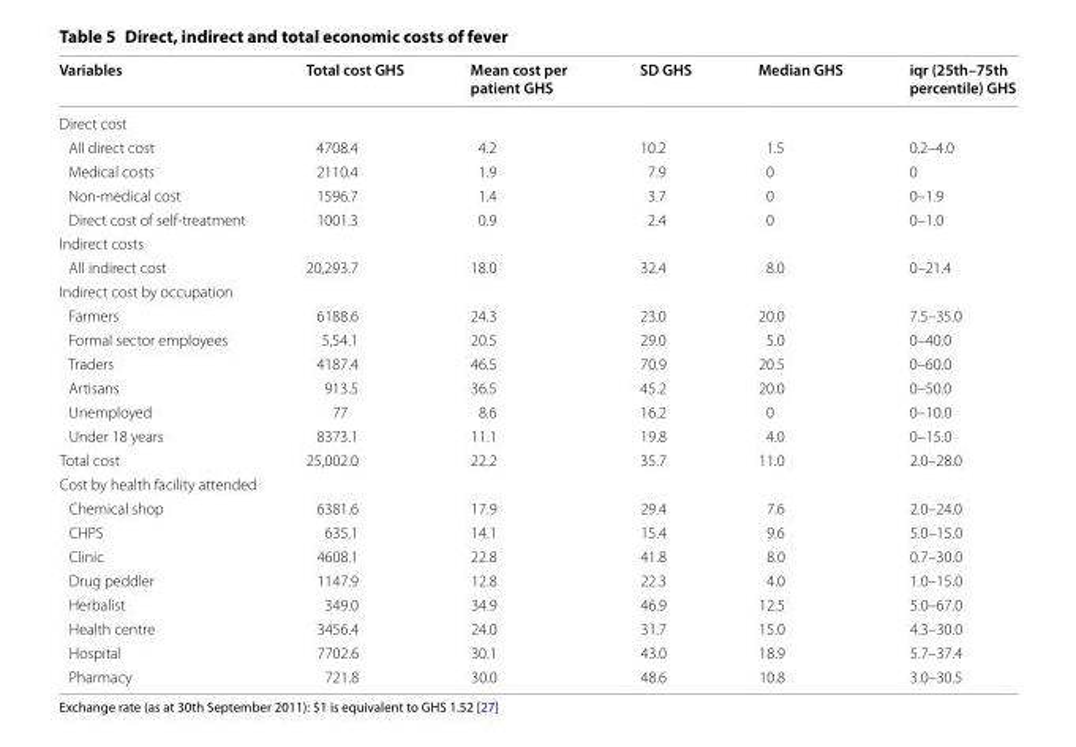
<table><thead><tr><td>Variables</td><td>Total cost GHS</td><td>Mean cost per patient GHS</td><td>SD GHS</td><td>Median GHS</td><td>iqr (25th–75th percentile) GHS</td></tr></thead><tbody><tr><td colspan="6">Direct cost</td></tr><tr><td>All direct cost</td><td>4708.4</td><td>4.2</td><td>10.2</td><td>1.5</td><td>0.2–4.0</td></tr><tr><td>Medical costs</td><td>2110.4</td><td>1.9</td><td>7.9</td><td>0</td><td>0</td></tr><tr><td>Non‑medical cost</td><td>1596.7</td><td>1.4</td><td>3.7</td><td>0</td><td>0–1.9</td></tr><tr><td>Direct cost of self‑treatment</td><td>1001.3</td><td>0.9</td><td>2.4</td><td>0</td><td>0–1.0</td></tr><tr><td colspan="6">Indirect costs</td></tr><tr><td>All indirect cost</td><td>20,293.7</td><td>18.0</td><td>32.4</td><td>8.0</td><td>0–21.4</td></tr><tr><td colspan="6">Indirect cost by occupation</td></tr><tr><td>Farmers</td><td>6188.6</td><td>24.3</td><td>23.0</td><td>20.0</td><td>7.5–35.0</td></tr><tr><td>Formal sector employees</td><td>5,54.1</td><td>20.5</td><td>29.0</td><td>5.0</td><td>0–40.0</td></tr><tr><td>Traders</td><td>4187.4</td><td>46.5</td><td>70.9</td><td>20.5</td><td>0–60.0</td></tr><tr><td>Artisans</td><td>913.5</td><td>36.5</td><td>45.2</td><td>20.0</td><td>0–50.0</td></tr><tr><td>Unemployed</td><td>77</td><td>8.6</td><td>16.2</td><td>0</td><td>0–10.0</td></tr><tr><td>Under 18 years</td><td>8373.1</td><td>11.1</td><td>19.8</td><td>4.0</td><td>0–15.0</td></tr><tr><td>Total cost</td><td>25,002.0</td><td>22.2</td><td>35.7</td><td>11.0</td><td>2.0–28.0</td></tr><tr><td colspan="6">Cost by health facility attended</td></tr><tr><td>Chemical shop</td><td>6381.6</td><td>17.9</td><td>29.4</td><td>7.6</td><td>2.0–24.0</td></tr><tr><td>CHPS</td><td>635.1</td><td>14.1</td><td>15.4</td><td>9.6</td><td>5.0–15.0</td></tr><tr><td>Clinic</td><td>4608.1</td><td>22.8</td><td>41.8</td><td>8.0</td><td>0.7–30.0</td></tr><tr><td>Drug peddler</td><td>1147.9</td><td>12.8</td><td>22.3</td><td>4.0</td><td>1.0–15.0</td></tr><tr><td>Herbalist</td><td>349.0</td><td>34.9</td><td>46.9</td><td>12.5</td><td>5.0–67.0</td></tr><tr><td>Health centre</td><td>3456.4</td><td>24.0</td><td>31.7</td><td>15.0</td><td>4.3–30.0</td></tr><tr><td>Hospital</td><td>7702.6</td><td>30.1</td><td>43.0</td><td>18.9</td><td>5.7–37.4</td></tr><tr><td>Pharmacy</td><td>721.8</td><td>30.0</td><td>48.6</td><td>10.8</td><td>3.0–30.5</td></tr></tbody></table>